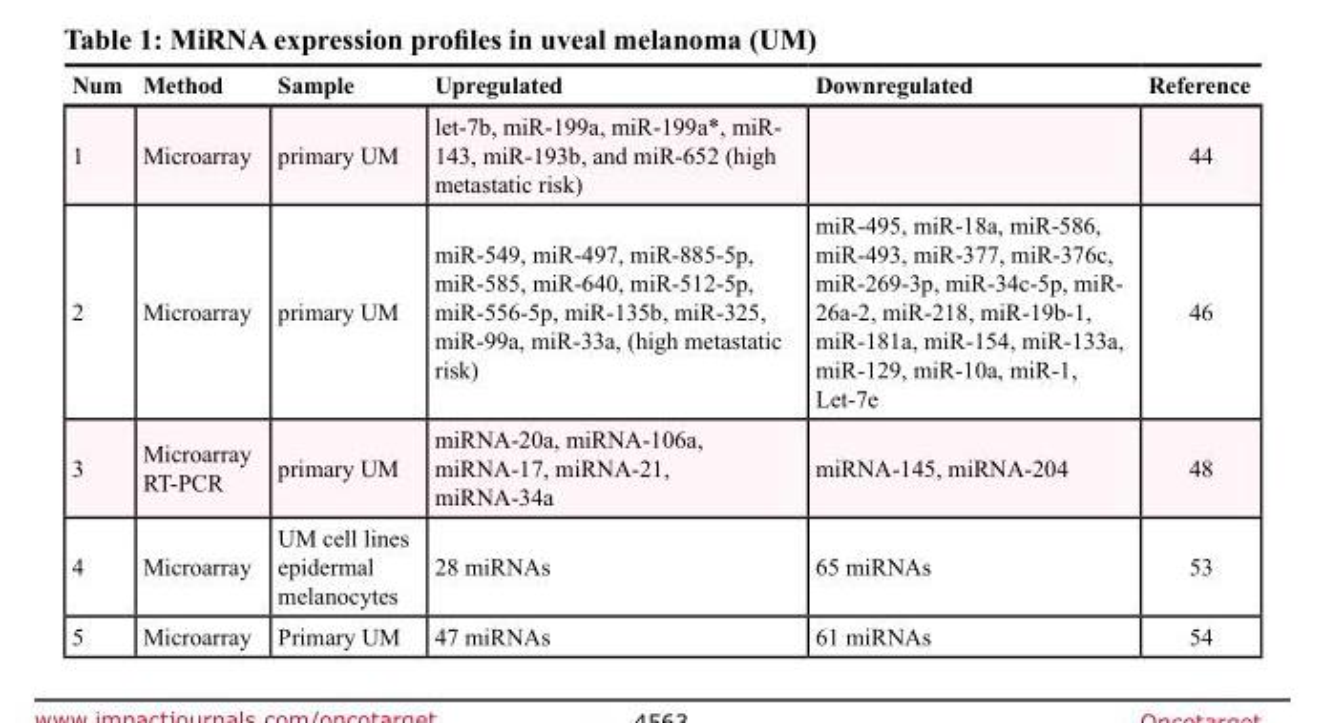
<table><thead><tr><td>Num</td><td>Method</td><td>Sample</td><td>Upregulated</td><td>Downregulated</td><td>Reference</td></tr></thead><tbody><tr><td>1</td><td>Microarray</td><td>primary UM</td><td>let-7b, miR-199a, miR-199a*, miR- 143, miR-193b, and miR-652 (high metastatic risk)</td><td></td><td>44</td></tr><tr><td>2</td><td>Microarray</td><td>primary UM</td><td>miR-549, miR-497, miR-885-5p, miR-585, miR-640, miR-512-5p, miR-556-5p, miR-135b, miR-325, miR-99a, miR-33a, (high metastatic risk)</td><td>miR-495, miR-18a, miR-586, miR-493, miR-377, miR-376c, miR-269-3p, miR-34c-5p, miR- 26a-2, miR-218, miR-19b-1, miR-181a, miR-154, miR-133a, miR-129, miR-10a, miR-1, Let-7e</td><td>46</td></tr><tr><td>3</td><td>Microarray RT-PCR</td><td>primary UM</td><td>miRNA-20a, miRNA-106a, miRNA-17, miRNA-21, miRNA-34a</td><td>miRNA-145, miRNA-204</td><td>48</td></tr><tr><td>4</td><td>Microarray</td><td>UM cell lines epidermal melanocytes</td><td>28 miRNAs</td><td>65 miRNAs</td><td>53</td></tr><tr><td>5</td><td>Microarray</td><td>Primary UM</td><td>47 miRNAs</td><td>61 miRNAs</td><td>54</td></tr></tbody></table>